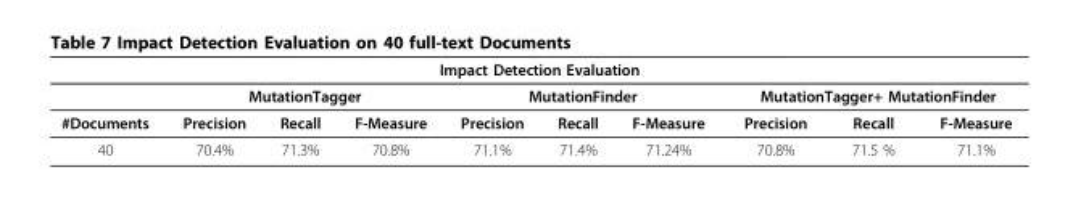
<table><thead><tr><td colspan="10">Impact Detection Evaluation</td></tr><tr><td rowspan="2">#Documents</td><td colspan="3">MutationTagger</td><td colspan="3">MutationFinder</td><td colspan="3">MutationTagger+ MutationFinder</td></tr><tr><td>Precision</td><td>Recall</td><td>F-Measure</td><td>Precision</td><td>Recall</td><td>F-Measure</td><td>Precision</td><td>Recall</td><td>F-Measure</td></tr></thead><tbody><tr><td>40</td><td>70.4%</td><td>71.3%</td><td>70.8%</td><td>71.1%</td><td>71.4%</td><td>71.24%</td><td>70.8%</td><td>71.5 %</td><td>71.1%</td></tr></tbody></table>